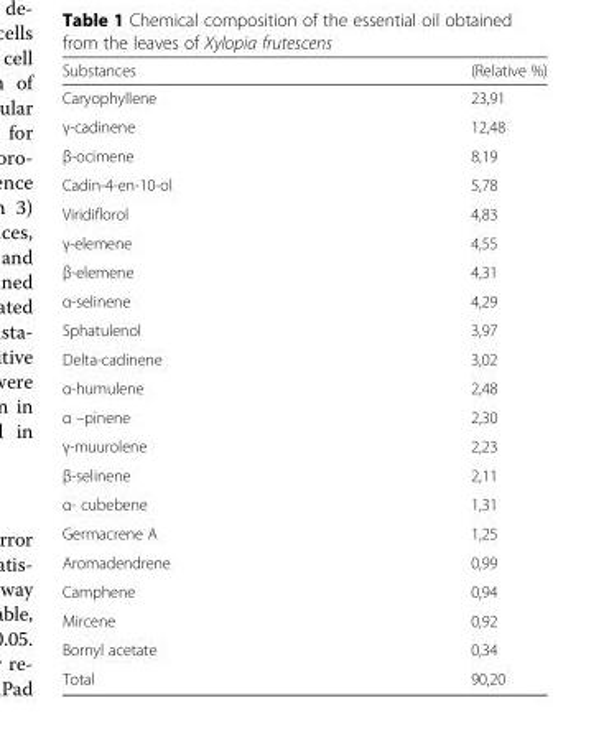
<table><thead><tr><td>Substances</td><td>(Relative %)</td></tr></thead><tbody><tr><td>Caryophyllene</td><td>23,91</td></tr><tr><td>γ-cadinene</td><td>12,48</td></tr><tr><td>β-ocimene</td><td>8,19</td></tr><tr><td>Cadin-4-en-10-ol</td><td>5,78</td></tr><tr><td>Viridiflorol</td><td>4,83</td></tr><tr><td>γ-elemene</td><td>4,55</td></tr><tr><td>β-elemene</td><td>4,31</td></tr><tr><td>α-selinene</td><td>4,29</td></tr><tr><td>Sphatulenol</td><td>3,97</td></tr><tr><td>Delta-cadinene</td><td>3,02</td></tr><tr><td>α-humulene</td><td>2,48</td></tr><tr><td>α –pinene</td><td>2,30</td></tr><tr><td>γ-muurolene</td><td>2,23</td></tr><tr><td>β-selinene</td><td>2,11</td></tr><tr><td>α- cubebene</td><td>1,31</td></tr><tr><td>Germacrene A</td><td>1,25</td></tr><tr><td>Aromadendrene</td><td>0,99</td></tr><tr><td>Camphene</td><td>0,94</td></tr><tr><td>Mircene</td><td>0,92</td></tr><tr><td>Bornyl acetate</td><td>0,34</td></tr><tr><td>Total</td><td>90,20</td></tr></tbody></table>